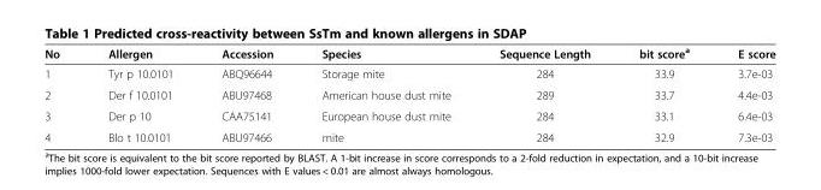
<table><thead><tr><td>No</td><td>Allergen</td><td>Accession</td><td>Species</td><td>Sequence Length</td><td>bit score<sup>a</sup></td><td>E score</td></tr></thead><tbody><tr><td>1</td><td>Tyr p 10.0101</td><td>ABQ96644</td><td>Storage mite</td><td>284</td><td>33.9</td><td>3.7e-03</td></tr><tr><td>2</td><td>Der f 10.0101</td><td>ABU97468</td><td>American house dust mite</td><td>289</td><td>33.7</td><td>4.4e-03</td></tr><tr><td>3</td><td>Der p 10</td><td>CAA75141</td><td>European house dust mite</td><td>284</td><td>33.1</td><td>6.4e-03</td></tr><tr><td>4</td><td>Blo t 10.0101</td><td>ABU97466</td><td>mite</td><td>284</td><td>32.9</td><td>7.3e-03</td></tr></tbody></table>